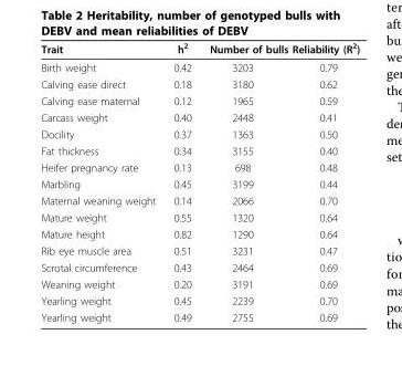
<table><thead><tr><td rowspan="2">Trait Birth weight</td><td rowspan="2">h<sup>2</sup> 0.42</td><td colspan="2">Number of bulls Reliability (R<sup>2</sup>)</td></tr><tr><td>3203</td><td>0.79</td></tr></thead><tbody><tr><td>Calving ease direct</td><td>0.18</td><td>3180</td><td>0.62</td></tr><tr><td>Calving ease maternal</td><td>0.12</td><td>1965</td><td>0.59</td></tr><tr><td>Carcass weight</td><td>0.40</td><td>2448</td><td>0.41</td></tr><tr><td>Docility</td><td>0.37</td><td>1363</td><td>0.50</td></tr><tr><td>Fat thickness</td><td>0.34</td><td>3155</td><td>0.40</td></tr><tr><td>Heifer pregnancy rate</td><td>0.13</td><td>698</td><td>0.48</td></tr><tr><td>Marbling</td><td>0.45</td><td>3199</td><td>0.44</td></tr><tr><td>Maternal weaning weight</td><td>0.14</td><td>2066</td><td>0.70</td></tr><tr><td>Mature weight</td><td>0.55</td><td>1320</td><td>0.64</td></tr><tr><td>Mature height</td><td>0.82</td><td>1290</td><td>0.64</td></tr><tr><td>Rib eye muscle area</td><td>0.51</td><td>3231</td><td>0.47</td></tr><tr><td>Scrotal circumference</td><td>0.43</td><td>2464</td><td>0.69</td></tr><tr><td>Weaning weight</td><td>0.20</td><td>3191</td><td>0.69</td></tr><tr><td>Yearling weight</td><td>0.45</td><td>2239</td><td>0.70</td></tr><tr><td>Yearling weight</td><td>0.49</td><td>2755</td><td>0.69</td></tr></tbody></table>